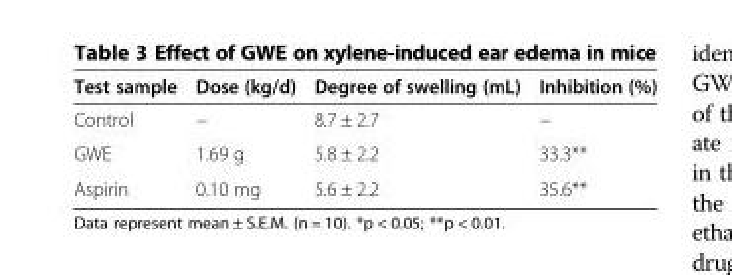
<table><thead><tr><td>Test sample</td><td>Dose (kg/d)</td><td>Degree of swelling (mL)</td><td>Inhibition (%)</td></tr></thead><tbody><tr><td>Control</td><td>−</td><td>8.7 ± 2.7</td><td>−</td></tr><tr><td>GWE</td><td>1.69 g</td><td>5.8 ± 2.2</td><td>33.3**</td></tr><tr><td>Aspirin</td><td>0.10 mg</td><td>5.6 ± 2.2</td><td>35.6**</td></tr></tbody></table>